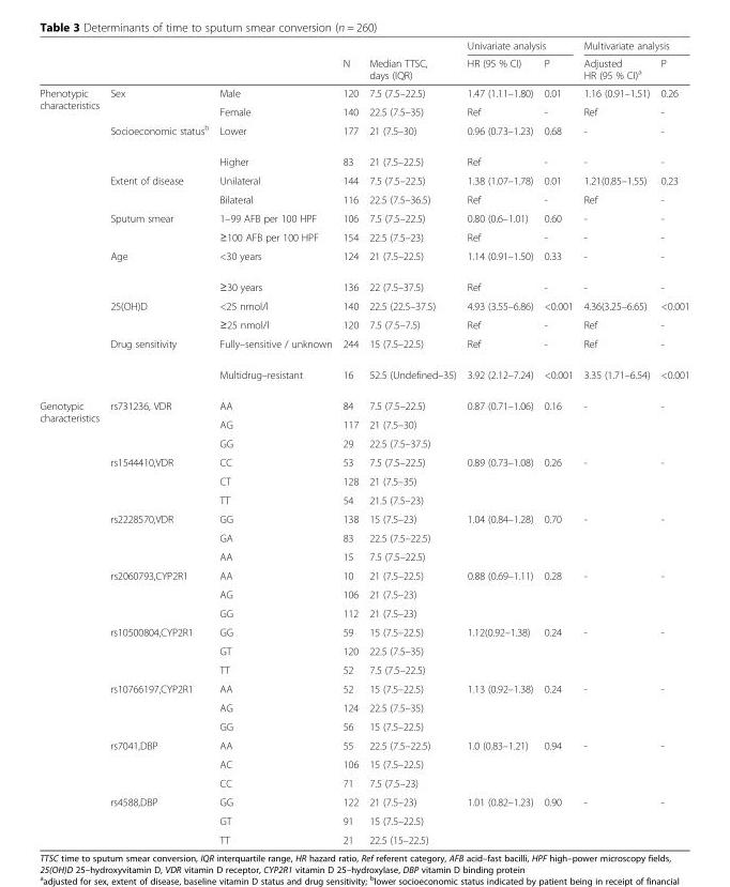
<table><thead><tr><td rowspan="2"></td><td rowspan="2"></td><td rowspan="2"></td><td rowspan="2">N</td><td rowspan="2">Median TTSC, days (IQR)</td><td colspan="2">Univariate analysis</td><td colspan="2">Multivariate analysis</td></tr><tr><td>HR (95 % CI)</td><td>P</td><td>Adjusted HR (95 % CI)<sup>a</sup></td><td>P</td></tr></thead><tbody><tr><td rowspan="14">Phenotypic characteristics</td><td>Sex</td><td>Male</td><td>120</td><td>7.5 (7.5–22.5)</td><td>1.47 (1.11–1.80)</td><td>0.01</td><td>1.16 (0.91–1.51)</td><td>0.26</td></tr><tr><td></td><td>Female</td><td>140</td><td>22.5 (7.5–35)</td><td>Ref</td><td>-</td><td>Ref</td><td>-</td></tr><tr><td>Socioeconomic status<sup>b</sup></td><td>Lower</td><td>177</td><td>21 (7.5–30)</td><td>0.96 (0.73–1.23)</td><td>0.68</td><td>-</td><td>-</td></tr><tr><td></td><td>Higher</td><td>83</td><td>21 (7.5–22.5)</td><td>Ref</td><td>-</td><td>-</td><td>-</td></tr><tr><td>Extent of disease</td><td>Unilateral</td><td>144</td><td>7.5 (7.5–22.5)</td><td>1.38 (1.07–1.78)</td><td>0.01</td><td>1.21(0.85–1.55)</td><td>0.23</td></tr><tr><td></td><td>Bilateral</td><td>116</td><td>22.5 (7.5–36.5)</td><td>Ref</td><td>-</td><td>Ref</td><td>-</td></tr><tr><td>Sputum smear</td><td>1–99 AFB per 100 HPF</td><td>106</td><td>7.5 (7.5–22.5)</td><td>0.80 (0.6–1.01)</td><td>0.60</td><td>-</td><td>-</td></tr><tr><td></td><td>≥100 AFB per 100 HPF</td><td>154</td><td>22.5 (7.5–23)</td><td>Ref</td><td>-</td><td>-</td><td>-</td></tr><tr><td>Age</td><td>&lt;30 years</td><td>124</td><td>21 (7.5–22.5)</td><td>1.14 (0.91–1.50)</td><td>0.33</td><td>-</td><td>-</td></tr><tr><td></td><td>≥30 years</td><td>136</td><td>22 (7.5–37.5)</td><td>Ref</td><td>-</td><td>-</td><td>-</td></tr><tr><td>25(OH)D</td><td>&lt;25 nmol/l</td><td>140</td><td>22.5 (22.5–37.5)</td><td>4.93 (3.55–6.86)</td><td>&lt;0.001</td><td>4.36(3.25–6.65)</td><td>&lt;0.001</td></tr><tr><td></td><td>≥25 nmol/l</td><td>120</td><td>7.5 (7.5–7.5)</td><td>Ref</td><td>-</td><td>Ref</td><td>-</td></tr><tr><td>Drug sensitivity</td><td>Fully–sensitive / unknown</td><td>244</td><td>15 (7.5–22.5)</td><td>Ref</td><td>-</td><td>Ref</td><td>-</td></tr><tr><td></td><td>Multidrug–resistant</td><td>16</td><td>52.5 (Undefined–35)</td><td>3.92 (2.12–7.24)</td><td>&lt;0.001</td><td>3.35 (1.71–6.54)</td><td>&lt;0.001</td></tr><tr><td rowspan="24">Genotypic characteristics</td><td>rs731236, VDR</td><td>AA</td><td>84</td><td>7.5 (7.5–22.5)</td><td rowspan="3">0.87 (0.71–1.06)</td><td rowspan="3">0.16</td><td rowspan="3">-</td><td rowspan="3">-</td></tr><tr><td></td><td>AG</td><td>117</td><td>21 (7.5–30)</td></tr><tr><td></td><td>GG</td><td>29</td><td>22.5 (7.5–37.5)</td></tr><tr><td>rs1544410,VDR</td><td>CC</td><td>53</td><td>7.5 (7.5–22.5)</td><td rowspan="3">0.89 (0.73–1.08)</td><td rowspan="3">0.26</td><td rowspan="3">-</td><td rowspan="3">-</td></tr><tr><td></td><td>CT</td><td>128</td><td>21 (7.5–35)</td></tr><tr><td></td><td>TT</td><td>54</td><td>21.5 (7.5–23)</td></tr><tr><td>rs2228570,VDR</td><td>GG</td><td>138</td><td>15 (7.5–23)</td><td rowspan="3">1.04 (0.84–1.28)</td><td rowspan="3">0.70</td><td rowspan="3">-</td><td rowspan="3">-</td></tr><tr><td></td><td>GA</td><td>83</td><td>22.5 (7.5–22.5)</td></tr><tr><td></td><td>AA</td><td>15</td><td>7.5 (7.5–22.5)</td></tr><tr><td>rs2060793,CYP2R1</td><td>AA</td><td>10</td><td>21 (7.5–22.5)</td><td rowspan="3">0.88 (0.69–1.11)</td><td rowspan="3">0.28</td><td rowspan="3">-</td><td rowspan="3">-</td></tr><tr><td></td><td>AG</td><td>106</td><td>21 (7.5–23)</td></tr><tr><td></td><td>GG</td><td>112</td><td>21 (7.5–23)</td></tr><tr><td>rs10500804,CYP2R1</td><td>GG</td><td>59</td><td>15 (7.5–22.5)</td><td rowspan="3">1.12(0.92–1.38)</td><td rowspan="3">0.24</td><td rowspan="3">-</td><td rowspan="3">-</td></tr><tr><td></td><td>GT</td><td>120</td><td>22.5 (7.5–35)</td></tr><tr><td></td><td>TT</td><td>52</td><td>7.5 (7.5–22.5)</td></tr><tr><td>rs10766197,CYP2R1</td><td>AA</td><td>52</td><td>15 (7.5–22.5)</td><td rowspan="3">1.13 (0.92–1.38)</td><td rowspan="3">0.24</td><td rowspan="3">-</td><td rowspan="3">-</td></tr><tr><td></td><td>AG</td><td>124</td><td>22.5 (7.5–35)</td></tr><tr><td></td><td>GG</td><td>56</td><td>15 (7.5–22.5)</td></tr><tr><td>rs7041,DBP</td><td>AA</td><td>55</td><td>22.5 (7.5–22.5)</td><td rowspan="3">1.0 (0.83–1.21)</td><td rowspan="3">0.94</td><td rowspan="3">-</td><td rowspan="3">-</td></tr><tr><td></td><td>AC</td><td>106</td><td>15 (7.5–22.5)</td></tr><tr><td></td><td>CC</td><td>71</td><td>7.5 (7.5–23)</td></tr><tr><td>rs4588,DBP</td><td>GG</td><td>122</td><td>21 (7.5–23)</td><td rowspan="3">1.01 (0.82–1.23)</td><td rowspan="3">0.90</td><td rowspan="3">-</td><td rowspan="3">-</td></tr><tr><td></td><td>GT</td><td>91</td><td>15 (7.5–22.5)</td></tr><tr><td></td><td>TT</td><td>21</td><td>22.5 (15–22.5)</td></tr></tbody></table>